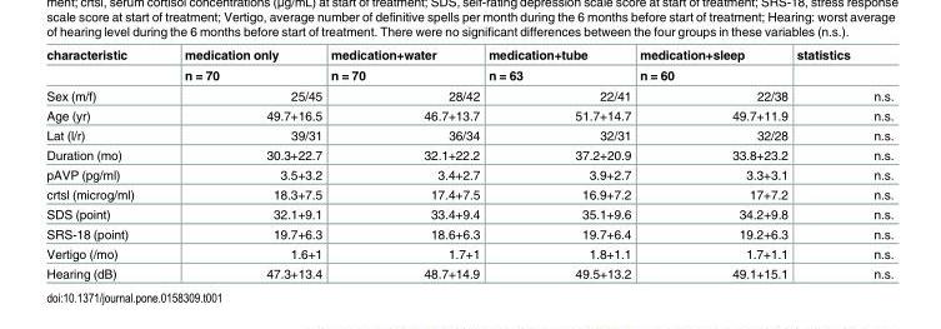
<table><thead><tr><td rowspan="2">characteristic</td><td rowspan="2">medication only n = 70</td><td rowspan="2">medication+water n = 70</td><td rowspan="2">medication+tube n = 63</td><td rowspan="2">medication+sleep n = 60</td><td rowspan="2">statistics</td></tr><tr></tr></thead><tbody><tr><td>Sex (m/f)</td><td>25/45</td><td>28/42</td><td>22/41</td><td>22/38</td><td>n.s.</td></tr><tr><td>Age (yr)</td><td>49.7+16.5</td><td>46.7+13.7</td><td>51.7+14.7</td><td>49.7+11.9</td><td>n.s.</td></tr><tr><td>Lat (l/r)</td><td>39/31</td><td>36/34</td><td>32/31</td><td>32/28</td><td>n.s.</td></tr><tr><td>Duration (mo)</td><td>30.3+22.7</td><td>32.1+22.2</td><td>37.2+20.9</td><td>33.8+23.2</td><td>n.s.</td></tr><tr><td>pAVP (pg/ml)</td><td>3.5+3.2</td><td>3.4+2.7</td><td>3.9+2.7</td><td>3.3+3.1</td><td>n.s.</td></tr><tr><td>crtsl (microg/ml)</td><td>18.3+7.5</td><td>17.4+7.5</td><td>16.9+7.2</td><td>17+7.2</td><td>n.s.</td></tr><tr><td>SDS (point)</td><td>32.1+9.1</td><td>33.4+9.4</td><td>35.1+9.6</td><td>34.2+9.8</td><td>n.s.</td></tr><tr><td>SRS-18 (point)</td><td>19.7+6.3</td><td>18.6+6.3</td><td>19.7+6.4</td><td>19.2+6.3</td><td>n.s.</td></tr><tr><td>Vertigo (/mo)</td><td>1.6+1</td><td>1.7+1</td><td>1.8+1.1</td><td>1.7+1.1</td><td>n.s.</td></tr><tr><td>Hearing (dB)</td><td>47.3+13.4</td><td>48.7+14.9</td><td>49.5+13.2</td><td>49.1+15.1</td><td>n.s.</td></tr></tbody></table>